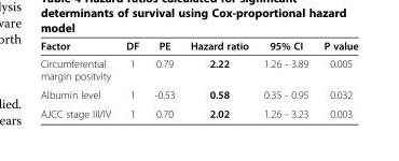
<table><thead><tr><td>Factor</td><td>DF</td><td>PE</td><td>Hazard ratio</td><td>95% CI</td><td>P value</td></tr></thead><tbody><tr><td>Circumferential margin positvity</td><td>1</td><td>0.79</td><td>2.22</td><td>1.26 - 3.89</td><td>0.005</td></tr><tr><td>Albumin level</td><td>1</td><td>-0.53</td><td>0.58</td><td>0.35 - 0.95</td><td>0.032</td></tr><tr><td>AJCC stage III/IV</td><td>1</td><td>0.70</td><td>2.02</td><td>1.26 - 3.23</td><td>0.003</td></tr></tbody></table>